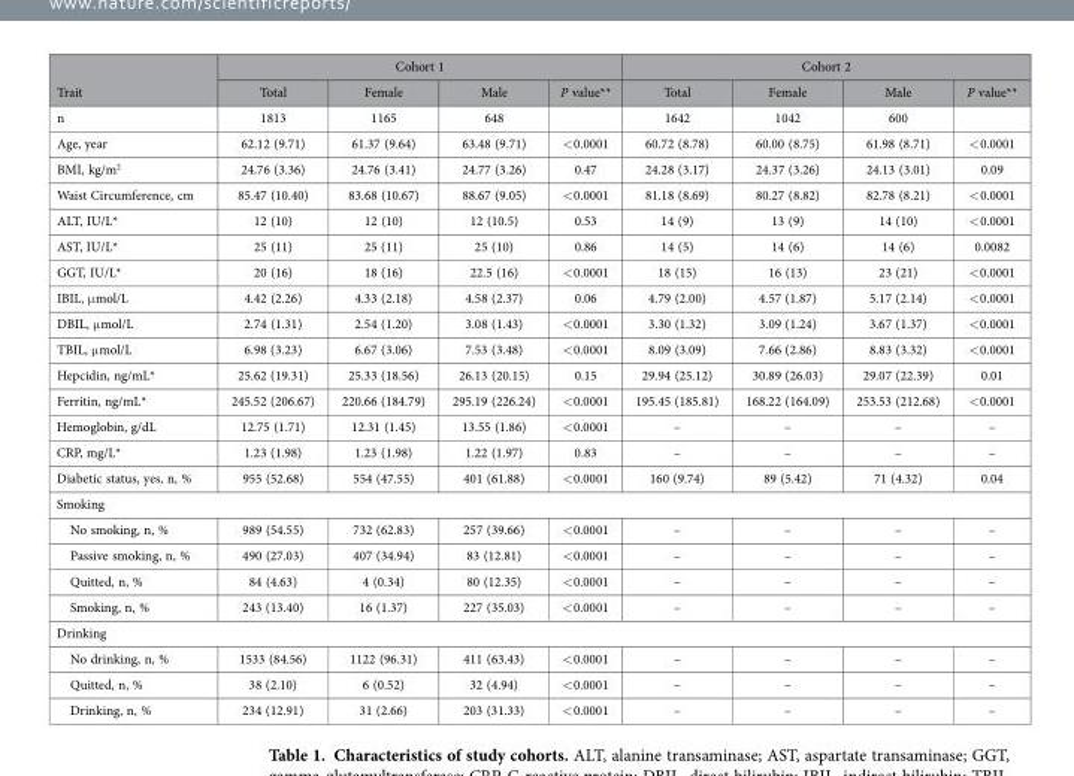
<table><thead><tr><td rowspan="2">Trait</td><td colspan="4">Cohort 1</td><td colspan="4">Cohort 2</td></tr><tr><td>Total</td><td>Female</td><td>Male</td><td>P value**</td><td>Total</td><td>Female</td><td>Male</td><td>P value**</td></tr></thead><tbody><tr><td>n</td><td>1813</td><td>1165</td><td>648</td><td></td><td>1642</td><td>1042</td><td>600</td><td></td></tr><tr><td>Age, year</td><td>62.12 (9.71)</td><td>61.37 (9.64)</td><td>63.48 (9.71)</td><td>&lt; 0.0001</td><td>60.72 (8.78)</td><td>60.00 (8.75)</td><td>61.98 (8.71)</td><td>&lt; 0.0001</td></tr><tr><td>BMI, kg/m<sup>2</sup></td><td>24.76 (3.36)</td><td>24.76 (3.41)</td><td>24.77 (3.26)</td><td>0.47</td><td>24.28 (3.17)</td><td>24.37 (3.26)</td><td>24.13 (3.01)</td><td>0.09</td></tr><tr><td>Waist Circumference, cm</td><td>85.47 (10.40)</td><td>83.68 (10.67)</td><td>88.67 (9.05)</td><td>&lt; 0.0001</td><td>81.18 (8.69)</td><td>80.27 (8.82)</td><td>82.78 (8.21)</td><td>&lt; 0.0001</td></tr><tr><td>ALT, IU/L*</td><td>12 (10)</td><td>12 (10)</td><td>12 (10.5)</td><td>0.53</td><td>14 (9)</td><td>13 (9)</td><td>14 (10)</td><td>&lt; 0.0001</td></tr><tr><td>AST, IU/L*</td><td>25 (11)</td><td>25 (11)</td><td>25 (10)</td><td>0.86</td><td>14 (5)</td><td>14 (6)</td><td>14 (6)</td><td>0.0082</td></tr><tr><td>GGT, IU/L*</td><td>20 (16)</td><td>18 (16)</td><td>22.5 (16)</td><td>&lt; 0.0001</td><td>18 (15)</td><td>16 (13)</td><td>23 (21)</td><td>&lt; 0.0001</td></tr><tr><td>IBIL, μ mol/L</td><td>4.42 (2.26)</td><td>4.33 (2.18)</td><td>4.58 (2.37)</td><td>0.06</td><td>4.79 (2.00)</td><td>4.57 (1.87)</td><td>5.17 (2.14)</td><td>&lt; 0.0001</td></tr><tr><td>DBIL, μ mol/L</td><td>2.74 (1.31)</td><td>2.54 (1.20)</td><td>3.08 (1.43)</td><td>&lt; 0.0001</td><td>3.30 (1.32)</td><td>3.09 (1.24)</td><td>3.67 (1.37)</td><td>&lt; 0.0001</td></tr><tr><td>TBIL, μ mol/L</td><td>6.98 (3.23)</td><td>6.67 (3.06)</td><td>7.53 (3.48)</td><td>&lt; 0.0001</td><td>8.09 (3.09)</td><td>7.66 (2.86)</td><td>8.83 (3.32)</td><td>&lt; 0.0001</td></tr><tr><td>Hepcidin, ng/mL*</td><td>25.62 (19.31)</td><td>25.33 (18.56)</td><td>26.13 (20.15)</td><td>0.15</td><td>29.94 (25.12)</td><td>30.89 (26.03)</td><td>29.07 (22.39)</td><td>0.01</td></tr><tr><td>Ferritin, ng/mL*</td><td>245.52 (206.67)</td><td>220.66 (184.79)</td><td>295.19 (226.24)</td><td>&lt; 0.0001</td><td>195.45 (185.81)</td><td>168.22 (164.09)</td><td>253.53 (212.68)</td><td>&lt; 0.0001</td></tr><tr><td>Hemoglobin, g/dL</td><td>12.75 (1.71)</td><td>12.31 (1.45)</td><td>13.55 (1.86)</td><td>&lt; 0.0001</td><td>–</td><td>–</td><td>–</td><td>–</td></tr><tr><td>CRP, mg/L*</td><td>1.23 (1.98)</td><td>1.23 (1.98)</td><td>1.22 (1.97)</td><td>0.83</td><td>–</td><td>–</td><td>–</td><td>–</td></tr><tr><td>Diabetic status, yes, n, %</td><td>955 (52.68)</td><td>554 (47.55)</td><td>401 (61.88)</td><td>&lt; 0.0001</td><td>160 (9.74)</td><td>89 (5.42)</td><td>71 (4.32)</td><td>0.04</td></tr><tr><td colspan="9">Smoking</td></tr><tr><td>No smoking, n, %</td><td>989 (54.55)</td><td>732 (62.83)</td><td>257 (39.66)</td><td>&lt; 0.0001</td><td>–</td><td>–</td><td>–</td><td>–</td></tr><tr><td>Passive smoking, n, %</td><td>490 (27.03)</td><td>407 (34.94)</td><td>83 (12.81)</td><td>&lt; 0.0001</td><td>–</td><td>–</td><td>–</td><td>–</td></tr><tr><td>Quitted, n, %</td><td>84 (4.63)</td><td>4 (0.34)</td><td>80 (12.35)</td><td>&lt; 0.0001</td><td>–</td><td>–</td><td>–</td><td>–</td></tr><tr><td>Smoking, n, %</td><td>243 (13.40)</td><td>16 (1.37)</td><td>227 (35.03)</td><td>&lt; 0.0001</td><td>–</td><td>–</td><td>–</td><td>–</td></tr><tr><td colspan="9">Drinking</td></tr><tr><td>No drinking, n, %</td><td>1533 (84.56)</td><td>1122 (96.31)</td><td>411 (63.43)</td><td>&lt; 0.0001</td><td>–</td><td>–</td><td>–</td><td>–</td></tr><tr><td>Quitted, n, %</td><td>38 (2.10)</td><td>6 (0.52)</td><td>32 (4.94)</td><td>&lt; 0.0001</td><td>–</td><td>–</td><td>–</td><td>–</td></tr><tr><td>Drinking, n, %</td><td>234 (12.91)</td><td>31 (2.66)</td><td>203 (31.33)</td><td>&lt; 0.0001</td><td>–</td><td>–</td><td>–</td><td>–</td></tr></tbody></table>